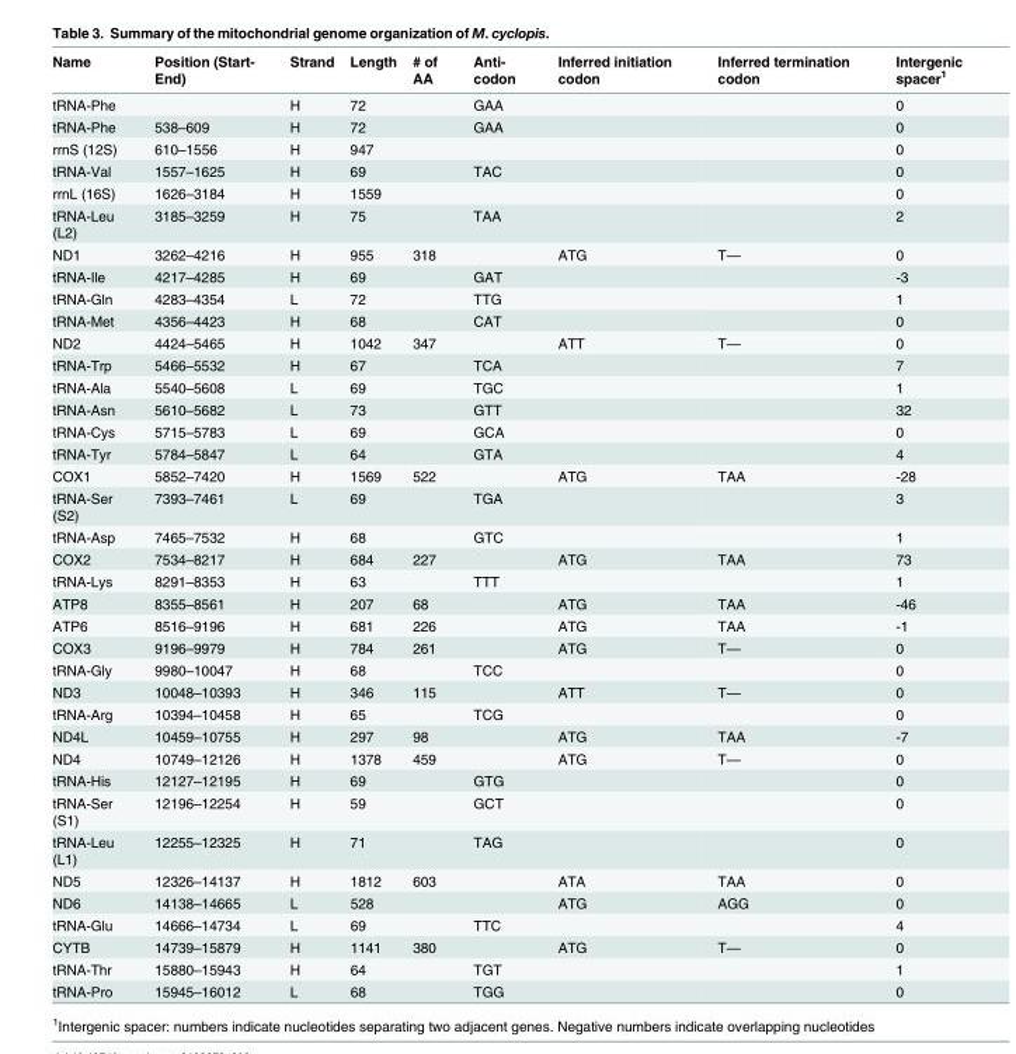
<table><thead><tr><td>Name</td><td>Position (Start- End)</td><td>Strand</td><td>Length</td><td># of AA</td><td>Anti- codon</td><td>Inferred initiation codon</td><td>Inferred termination codon</td><td>Intergenic spacer<sup>1</sup></td></tr></thead><tbody><tr><td>tRNA-Phe</td><td></td><td>H</td><td>72</td><td></td><td>GAA</td><td></td><td></td><td>0</td></tr><tr><td>tRNA-Phe</td><td>538–609</td><td>H</td><td>72</td><td></td><td>GAA</td><td></td><td></td><td>0</td></tr><tr><td>rrnS (12S)</td><td>610–1556</td><td>H</td><td>947</td><td></td><td></td><td></td><td></td><td>0</td></tr><tr><td>tRNA-Val</td><td>1557–1625</td><td>H</td><td>69</td><td></td><td>TAC</td><td></td><td></td><td>0</td></tr><tr><td>rrnL (16S)</td><td>1626–3184</td><td>H</td><td>1559</td><td></td><td></td><td></td><td></td><td>0</td></tr><tr><td>tRNA-Leu (L2)</td><td>3185–3259</td><td>H</td><td>75</td><td></td><td>TAA</td><td></td><td></td><td>2</td></tr><tr><td>ND1</td><td>3262–4216</td><td>H</td><td>955</td><td>318</td><td></td><td>ATG</td><td>T—</td><td>0</td></tr><tr><td>tRNA-Ile</td><td>4217–4285</td><td>H</td><td>69</td><td></td><td>GAT</td><td></td><td></td><td>-3</td></tr><tr><td>tRNA-Gln</td><td>4283–4354</td><td>L</td><td>72</td><td></td><td>TTG</td><td></td><td></td><td>1</td></tr><tr><td>tRNA-Met</td><td>4356–4423</td><td>H</td><td>68</td><td></td><td>CAT</td><td></td><td></td><td>0</td></tr><tr><td>ND2</td><td>4424–5465</td><td>H</td><td>1042</td><td>347</td><td></td><td>ATT</td><td>T—</td><td>0</td></tr><tr><td>tRNA-Trp</td><td>5466–5532</td><td>H</td><td>67</td><td></td><td>TCA</td><td></td><td></td><td>7</td></tr><tr><td>tRNA-Ala</td><td>5540–5608</td><td>L</td><td>69</td><td></td><td>TGC</td><td></td><td></td><td>1</td></tr><tr><td>tRNA-Asn</td><td>5610–5682</td><td>L</td><td>73</td><td></td><td>GTT</td><td></td><td></td><td>32</td></tr><tr><td>tRNA-Cys</td><td>5715–5783</td><td>L</td><td>69</td><td></td><td>GCA</td><td></td><td></td><td>0</td></tr><tr><td>tRNA-Tyr</td><td>5784–5847</td><td>L</td><td>64</td><td></td><td>GTA</td><td></td><td></td><td>4</td></tr><tr><td>COX1</td><td>5852–7420</td><td>H</td><td>1569</td><td>522</td><td></td><td>ATG</td><td>TAA</td><td>-28</td></tr><tr><td>tRNA-Ser (S2)</td><td>7393–7461</td><td>L</td><td>69</td><td></td><td>TGA</td><td></td><td></td><td>3</td></tr><tr><td>tRNA-Asp</td><td>7465–7532</td><td>H</td><td>68</td><td></td><td>GTC</td><td></td><td></td><td>1</td></tr><tr><td>COX2</td><td>7534–8217</td><td>H</td><td>684</td><td>227</td><td></td><td>ATG</td><td>TAA</td><td>73</td></tr><tr><td>tRNA-Lys</td><td>8291–8353</td><td>H</td><td>63</td><td></td><td>TTT</td><td></td><td></td><td>1</td></tr><tr><td>ATP8</td><td>8355–8561</td><td>H</td><td>207</td><td>68</td><td></td><td>ATG</td><td>TAA</td><td>-46</td></tr><tr><td>ATP6</td><td>8516–9196</td><td>H</td><td>681</td><td>226</td><td></td><td>ATG</td><td>TAA</td><td>-1</td></tr><tr><td>COX3</td><td>9196–9979</td><td>H</td><td>784</td><td>261</td><td></td><td>ATG</td><td>T—</td><td>0</td></tr><tr><td>tRNA-Gly</td><td>9980–10047</td><td>H</td><td>68</td><td></td><td>TCC</td><td></td><td></td><td>0</td></tr><tr><td>ND3</td><td>10048–10393</td><td>H</td><td>346</td><td>115</td><td></td><td>ATT</td><td>T—</td><td>0</td></tr><tr><td>tRNA-Arg</td><td>10394–10458</td><td>H</td><td>65</td><td></td><td>TCG</td><td></td><td></td><td>0</td></tr><tr><td>ND4L</td><td>10459–10755</td><td>H</td><td>297</td><td>98</td><td></td><td>ATG</td><td>TAA</td><td>-7</td></tr><tr><td>ND4</td><td>10749–12126</td><td>H</td><td>1378</td><td>459</td><td></td><td>ATG</td><td>T—</td><td>0</td></tr><tr><td>tRNA-His</td><td>12127–12195</td><td>H</td><td>69</td><td></td><td>GTG</td><td></td><td></td><td>0</td></tr><tr><td>tRNA-Ser (S1)</td><td>12196–12254</td><td>H</td><td>59</td><td></td><td>GCT</td><td></td><td></td><td>0</td></tr><tr><td>tRNA-Leu (L1)</td><td>12255–12325</td><td>H</td><td>71</td><td></td><td>TAG</td><td></td><td></td><td>0</td></tr><tr><td>ND5</td><td>12326–14137</td><td>H</td><td>1812</td><td>603</td><td></td><td>ATA</td><td>TAA</td><td>0</td></tr><tr><td>ND6</td><td>14138–14665</td><td>L</td><td>528</td><td></td><td></td><td>ATG</td><td>AGG</td><td>0</td></tr><tr><td>tRNA-Glu</td><td>14666–14734</td><td>L</td><td>69</td><td></td><td>TTC</td><td></td><td></td><td>4</td></tr><tr><td>CYTB</td><td>14739–15879</td><td>H</td><td>1141</td><td>380</td><td></td><td>ATG</td><td>T—</td><td>0</td></tr><tr><td>tRNA-Thr</td><td>15880–15943</td><td>H</td><td>64</td><td></td><td>TGT</td><td></td><td></td><td>1</td></tr><tr><td>tRNA-Pro</td><td>15945–16012</td><td>L</td><td>68</td><td></td><td>TGG</td><td></td><td></td><td>0</td></tr></tbody></table>